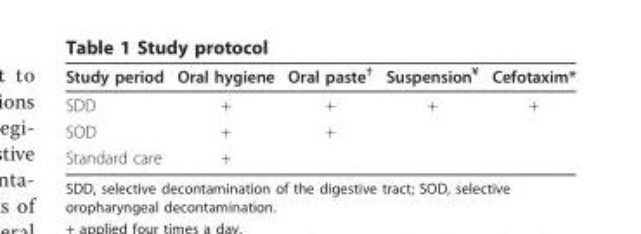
<table><thead><tr><td>Study period</td><td>Oral hygiene</td><td>Oral paste<sup>†</sup></td><td>Suspension<sup>¥</sup></td><td>Cefotaxim*</td></tr></thead><tbody><tr><td>SDD</td><td>+</td><td>+</td><td>+</td><td>+</td></tr><tr><td>SOD</td><td>+</td><td>+</td><td></td><td></td></tr><tr><td>Standard care</td><td>+</td><td></td><td></td><td></td></tr></tbody></table>